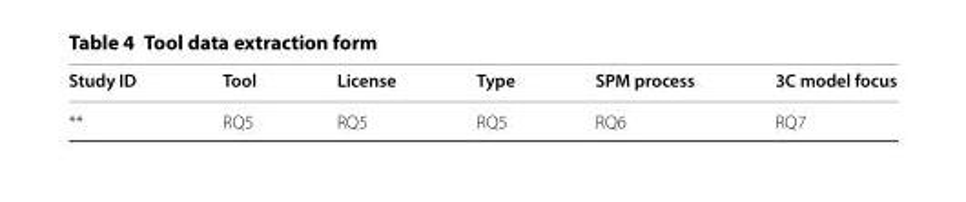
<table><thead><tr><td>Study ID</td><td>Tool</td><td>License</td><td>Type</td><td>SPM process</td><td>3C model focus</td></tr></thead><tbody><tr><td>**</td><td>RQ5</td><td>RQ5</td><td>RQ5</td><td>RQ6</td><td>RQ7</td></tr></tbody></table>